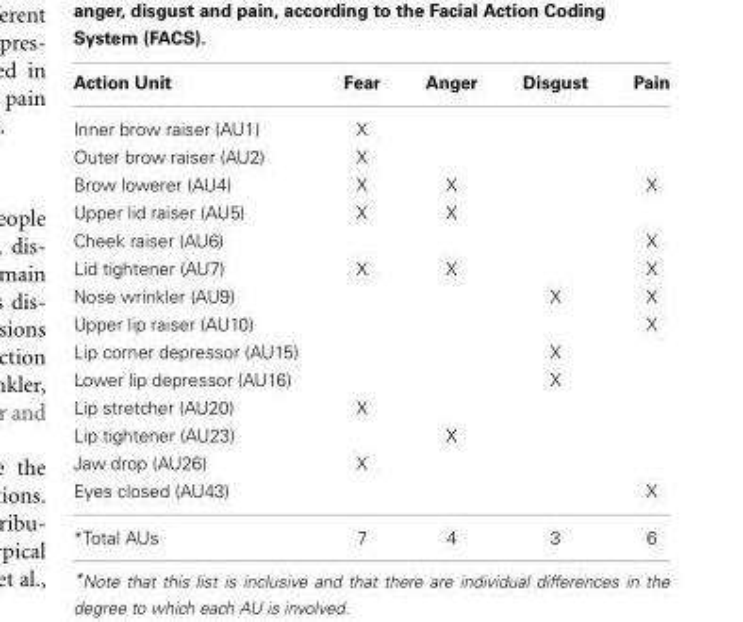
<table><thead><tr><td>Action Unit</td><td>Fear</td><td>Anger</td><td>Disgust</td><td>Pain</td></tr></thead><tbody><tr><td>Inner brow raiser (AU1)</td><td>X</td><td></td><td></td><td></td></tr><tr><td>Outer brow raiser (AU2)</td><td>X</td><td></td><td></td><td></td></tr><tr><td>Brow lowerer (AU4)</td><td>X</td><td>X</td><td></td><td>X</td></tr><tr><td>Upper lid raiser (AU5)</td><td>X</td><td>X</td><td></td><td></td></tr><tr><td>Cheek raiser (AU6)</td><td></td><td></td><td></td><td>X</td></tr><tr><td>Lid tightener (AU7)</td><td>X</td><td>X</td><td></td><td>X</td></tr><tr><td>Nose wrinkler (AU9)</td><td></td><td></td><td>X</td><td>X</td></tr><tr><td>Upper lip raiser (AU10)</td><td></td><td></td><td></td><td>X</td></tr><tr><td>Lip corner depressor (AU15)</td><td></td><td></td><td>X</td><td></td></tr><tr><td>Lower lip depressor (AU16)</td><td></td><td></td><td>X</td><td></td></tr><tr><td>Lip stretcher (AU20)</td><td>X</td><td></td><td></td><td></td></tr><tr><td>Lip tightener (AU23)</td><td></td><td>X</td><td></td><td></td></tr><tr><td>Jaw drop (AU26)</td><td>X</td><td></td><td></td><td></td></tr><tr><td>Eyes closed (AU43)</td><td></td><td></td><td></td><td>X</td></tr><tr><td>*Total AUs</td><td>7</td><td>4</td><td>3</td><td>6</td></tr></tbody></table>